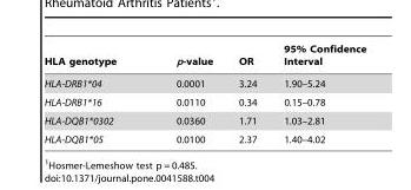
<table><thead><tr><td>HLA genotype</td><td>p-value</td><td>OR</td><td>95% Confidence Interval</td></tr></thead><tbody><tr><td>HLA-DRB1*04</td><td>0.0001</td><td>3.24</td><td>1.90–5.24</td></tr><tr><td>HLA-DRB1*16</td><td>0.0110</td><td>0.34</td><td>0.15–0.78</td></tr><tr><td>HLA-DQB1*0302</td><td>0.0360</td><td>1.71</td><td>1.03–2.81</td></tr><tr><td>HLA-DQB1*05</td><td>0.0100</td><td>2.37</td><td>1.40–4.02</td></tr></tbody></table>